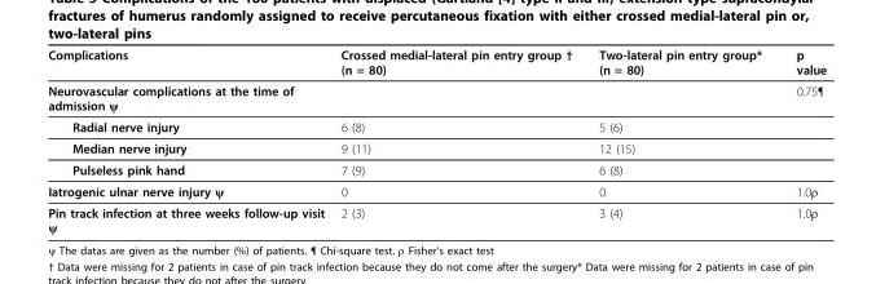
<table><thead><tr><td>Complications</td><td>Crossed medial-lateral pin entry group † (n = 80)</td><td>Two-lateral pin entry group* (n = 80)</td><td>p value</td></tr></thead><tbody><tr><td>Neurovascular complications at the time of admission ψ</td><td></td><td></td><td>0.75¶</td></tr><tr><td>Radial nerve injury</td><td>6 (8)</td><td>5 (6)</td><td></td></tr><tr><td>Median nerve injury</td><td>9 (11)</td><td>12 (15)</td><td></td></tr><tr><td>Pulseless pink hand</td><td>7 (9)</td><td>6 (8)</td><td></td></tr><tr><td>Iatrogenic ulnar nerve injury ψ</td><td>0</td><td>0</td><td>1.0ρ</td></tr><tr><td>Pin track infection at three weeks follow-up visit ψ</td><td>2 (3)</td><td>3 (4)</td><td>1.0ρ</td></tr></tbody></table>